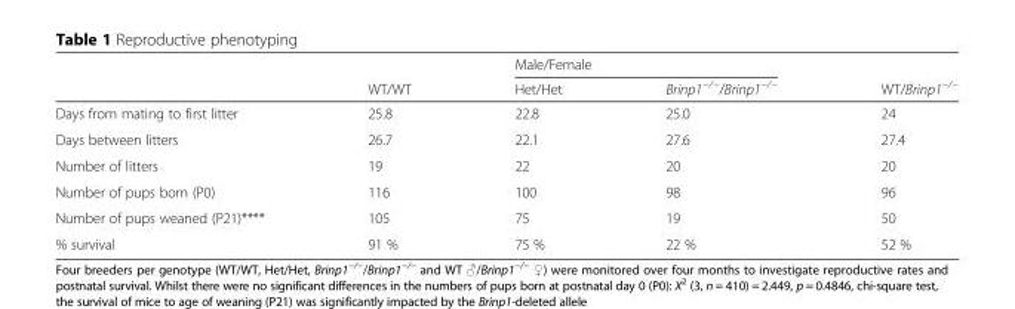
<table><thead><tr><td rowspan="2"></td><td rowspan="2">WT/WT</td><td colspan="2">Male/Female</td><td rowspan="2">WT/Brinp1<sup>−/−</sup></td></tr><tr><td>Het/Het</td><td>Brinp1<sup>−/−</sup>/Brinp1<sup>−/−</sup></td></tr></thead><tbody><tr><td>Days from mating to first litter</td><td>25.8</td><td>22.8</td><td>25.0</td><td>24</td></tr><tr><td>Days between litters</td><td>26.7</td><td>22.1</td><td>27.6</td><td>27.4</td></tr><tr><td>Number of litters</td><td>19</td><td>22</td><td>20</td><td>20</td></tr><tr><td>Number of pups born (P0)</td><td>116</td><td>100</td><td>98</td><td>96</td></tr><tr><td>Number of pups weaned (P21)****</td><td>105</td><td>75</td><td>19</td><td>50</td></tr><tr><td>% survival</td><td>91 %</td><td>75 %</td><td>22 %</td><td>52 %</td></tr></tbody></table>